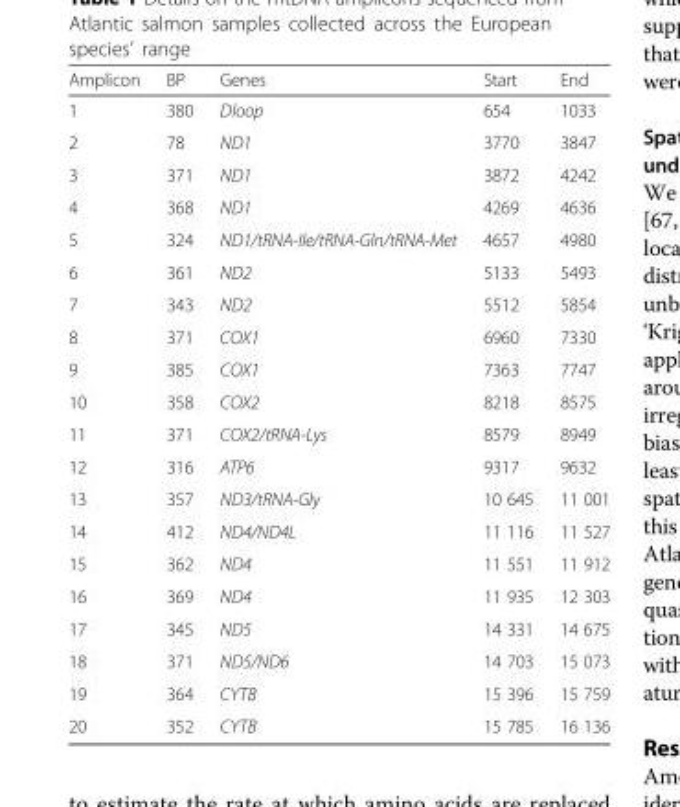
<table><thead><tr><td>Amplicon</td><td>BP</td><td>Genes</td><td>Start</td><td>End</td></tr></thead><tbody><tr><td>1</td><td>380</td><td>Dloop</td><td>654</td><td>1033</td></tr><tr><td>2</td><td>78</td><td>ND1</td><td>3770</td><td>3847</td></tr><tr><td>3</td><td>371</td><td>ND1</td><td>3872</td><td>4242</td></tr><tr><td>4</td><td>368</td><td>ND1</td><td>4269</td><td>4636</td></tr><tr><td>5</td><td>324</td><td>ND1/tRNA-Ile/tRNA-Gln/tRNA-Met</td><td>4657</td><td>4980</td></tr><tr><td>6</td><td>361</td><td>ND2</td><td>5133</td><td>5493</td></tr><tr><td>7</td><td>343</td><td>ND2</td><td>5512</td><td>5854</td></tr><tr><td>8</td><td>371</td><td>COX1</td><td>6960</td><td>7330</td></tr><tr><td>9</td><td>385</td><td>COX1</td><td>7363</td><td>7747</td></tr><tr><td>10</td><td>358</td><td>COX2</td><td>8218</td><td>8575</td></tr><tr><td>11</td><td>371</td><td>COX2/tRNA-Lys</td><td>8579</td><td>8949</td></tr><tr><td>12</td><td>316</td><td>ATP6</td><td>9317</td><td>9632</td></tr><tr><td>13</td><td>357</td><td>ND3/tRNA-Gly</td><td>10 645</td><td>11 001</td></tr><tr><td>14</td><td>412</td><td>ND4/ND4L</td><td>11 116</td><td>11 527</td></tr><tr><td>15</td><td>362</td><td>ND4</td><td>11 551</td><td>11 912</td></tr><tr><td>16</td><td>369</td><td>ND4</td><td>11 935</td><td>12 303</td></tr><tr><td>17</td><td>345</td><td>ND5</td><td>14 331</td><td>14 675</td></tr><tr><td>18</td><td>371</td><td>ND5/ND6</td><td>14 703</td><td>15 073</td></tr><tr><td>19</td><td>364</td><td>CYTB</td><td>15 396</td><td>15 759</td></tr><tr><td>20</td><td>352</td><td>CYTB</td><td>15 785</td><td>16 136</td></tr></tbody></table>